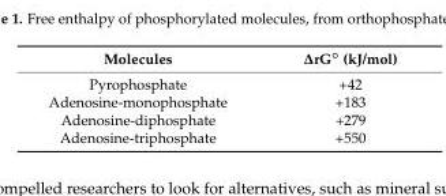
<table><thead><tr><td>Molecules</td><td>∆rG◦ (kJ/mol)</td></tr></thead><tbody><tr><td>Pyrophosphate</td><td>+42</td></tr><tr><td>Adenosine-monophosphate</td><td>+183</td></tr><tr><td>Adenosine-diphosphate</td><td>+279</td></tr><tr><td>Adenosine-triphosphate</td><td>+550</td></tr></tbody></table>